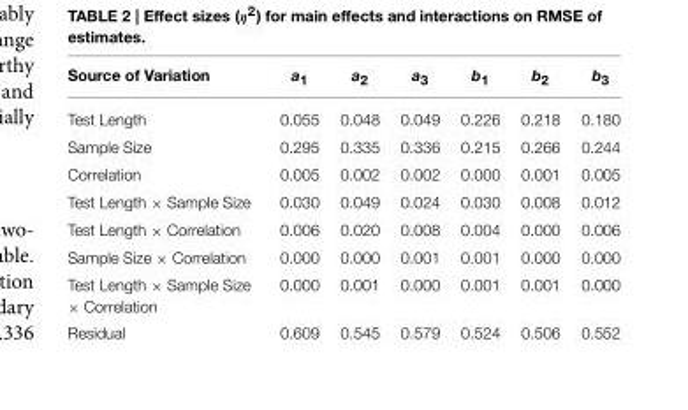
<table><thead><tr><td>Source of Variation</td><td>a<sub>1</sub></td><td>a<sub>2</sub></td><td>a<sub>3</sub></td><td>b<sub>1</sub></td><td>b<sub>2</sub></td><td>b<sub>3</sub></td></tr></thead><tbody><tr><td>Test Length</td><td>0.055</td><td>0.048</td><td>0.049</td><td>0.226</td><td>0.218</td><td>0.180</td></tr><tr><td>Sample Size</td><td>0.295</td><td>0.335</td><td>0.336</td><td>0.215</td><td>0.266</td><td>0.244</td></tr><tr><td>Correlation</td><td>0.005</td><td>0.002</td><td>0.002</td><td>0.000</td><td>0.001</td><td>0.005</td></tr><tr><td>Test Length × Sample Size</td><td>0.030</td><td>0.049</td><td>0.024</td><td>0.030</td><td>0.008</td><td>0.012</td></tr><tr><td>Test Length × Correlation</td><td>0.006</td><td>0.020</td><td>0.008</td><td>0.004</td><td>0.000</td><td>0.006</td></tr><tr><td>Sample Size × Correlation</td><td>0.000</td><td>0.000</td><td>0.001</td><td>0.001</td><td>0.000</td><td>0.000</td></tr><tr><td>Test Length × Sample Size × Correlation</td><td>0.000</td><td>0.001</td><td>0.000</td><td>0.001</td><td>0.001</td><td>0.000</td></tr><tr><td>Residual</td><td>0.609</td><td>0.545</td><td>0.579</td><td>0.524</td><td>0.506</td><td>0.552</td></tr></tbody></table>